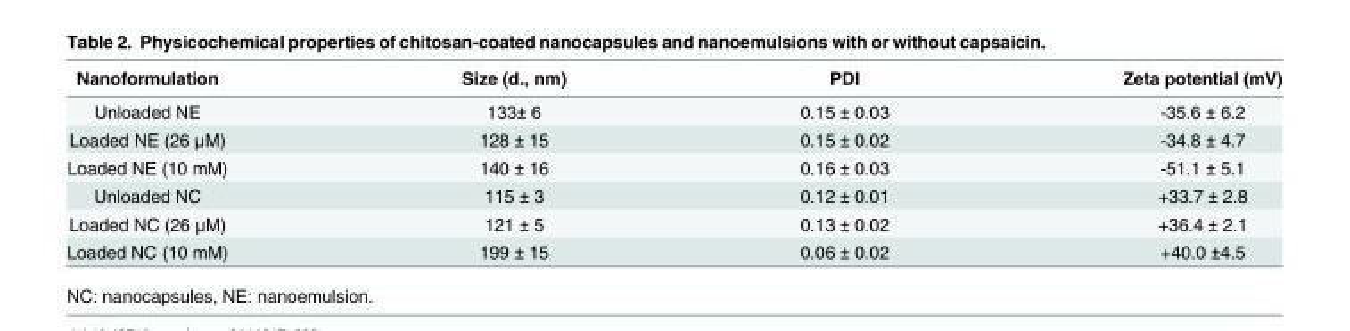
<table><thead><tr><td>Nanoformulation</td><td>Size (d., nm)</td><td>PDI</td><td>Zeta potential (mV)</td></tr></thead><tbody><tr><td>Unloaded NE</td><td>133± 6</td><td>0.15 ± 0.03</td><td>-35.6 ± 6.2</td></tr><tr><td>Loaded NE (26 μM)</td><td>128 ± 15</td><td>0.15 ± 0.02</td><td>-34.8 ± 4.7</td></tr><tr><td>Loaded NE (10 mM)</td><td>140 ± 16</td><td>0.16 ± 0.03</td><td>-51.1 ± 5.1</td></tr><tr><td>Unloaded NC</td><td>115 ± 3</td><td>0.12 ± 0.01</td><td>+33.7 ± 2.8</td></tr><tr><td>Loaded NC (26 μM)</td><td>121 ± 5</td><td>0.13 ± 0.02</td><td>+36.4 ± 2.1</td></tr><tr><td>Loaded NC (10 mM)</td><td>199 ± 15</td><td>0.06 ± 0.02</td><td>+40.0 ±4.5</td></tr></tbody></table>